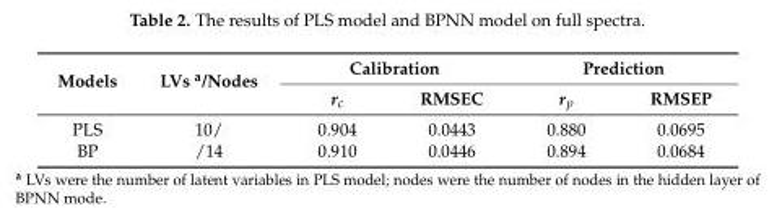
<table><thead><tr><td rowspan="2">Models</td><td rowspan="2">LVs <sup>a</sup>/Nodes</td><td colspan="2">Calibration</td><td colspan="2">Prediction</td></tr><tr><td>r<sub>c</sub></td><td>RMSEC</td><td>r<sub>p</sub></td><td>RMSEP</td></tr></thead><tbody><tr><td>PLS</td><td>10/</td><td>0.904</td><td>0.0443</td><td>0.880</td><td>0.0695</td></tr><tr><td>BP</td><td>/14</td><td>0.910</td><td>0.0446</td><td>0.894</td><td>0.0684</td></tr></tbody></table>